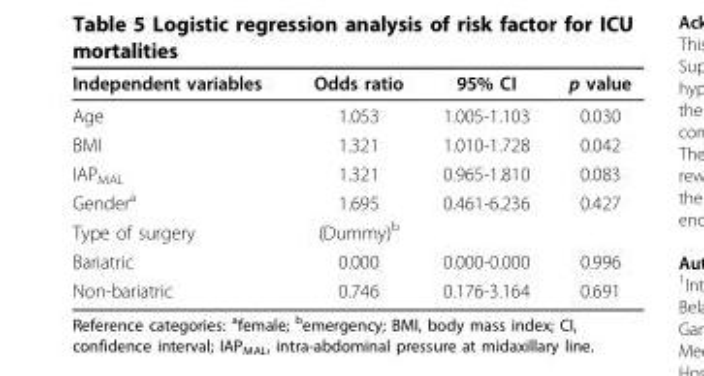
<table><thead><tr><td>Independent variables</td><td>Odds ratio</td><td>95% CI</td><td>p value</td></tr></thead><tbody><tr><td>Age</td><td>1.053</td><td>1.005-1.103</td><td>0.030</td></tr><tr><td>BMI</td><td>1.321</td><td>1.010-1.728</td><td>0.042</td></tr><tr><td>IAP<sub>MAL</sub></td><td>1.321</td><td>0.965-1.810</td><td>0.083</td></tr><tr><td>Gender<sup>a</sup></td><td>1.695</td><td>0.461-6.236</td><td>0.427</td></tr><tr><td>Type of surgery</td><td>(Dummy)<sup>b</sup></td><td></td><td></td></tr><tr><td>Bariatric</td><td>0.000</td><td>0.000-0.000</td><td>0.996</td></tr><tr><td>Non-bariatric</td><td>0.746</td><td>0.176-3.164</td><td>0.691</td></tr></tbody></table>